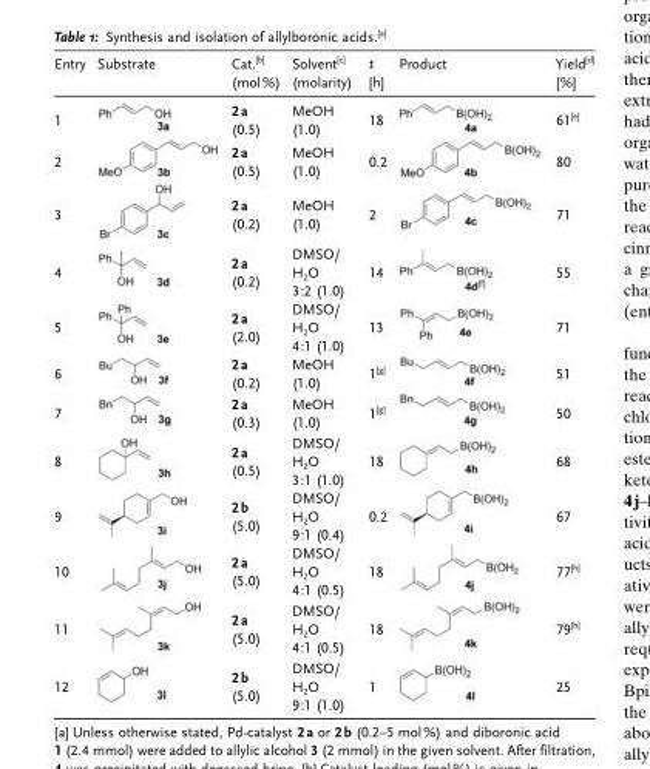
<table><thead><tr><td>Entry</td><td>Substrate</td><td>Cat.<sup>[b]</sup> (mol%)</td><td>Solvent<sup>[c]</sup> (molarity)</td><td>t [h]</td><td>Product</td><td>Yield<sup>[d]</sup> [%]</td></tr></thead><tbody><tr><td>1</td><td></td><td>2a (0.5)</td><td>MeOH (1.0)</td><td>18</td><td></td><td>61<sup>[e]</sup></td></tr><tr><td>2</td><td></td><td>2a (0.5)</td><td>MeOH (1.0)</td><td>0.2</td><td></td><td>80</td></tr><tr><td>3</td><td></td><td>2a (0.2)</td><td>MeOH (1.0)</td><td>2</td><td></td><td>71</td></tr><tr><td>4</td><td></td><td>2a (0.2)</td><td>DMSO/ H<sub>2</sub>O 3:2 (1.0)</td><td>14</td><td></td><td>55</td></tr><tr><td>5</td><td></td><td>2a (2.0)</td><td>DMSO/ H<sub>2</sub>O 4:1 (1.0)</td><td>13</td><td></td><td>71</td></tr><tr><td>6</td><td></td><td>2a (0.2)</td><td>MeOH (1.0)</td><td>1<sup>[g]</sup></td><td></td><td>51</td></tr><tr><td>7</td><td></td><td>2a (0.3)</td><td>MeOH (1.0)</td><td>1<sup>[g]</sup></td><td></td><td>50</td></tr><tr><td>8</td><td></td><td>2a (0.5)</td><td>DMSO/ H<sub>2</sub>O 3:1 (1.0)</td><td>18</td><td></td><td>68</td></tr><tr><td>9</td><td></td><td>2b (5.0)</td><td>DMSO/ H<sub>2</sub>O 9:1 (0.4)</td><td>0.2</td><td></td><td>67</td></tr><tr><td>10</td><td></td><td>2a (5.0)</td><td>DMSO/ H<sub>2</sub>O 4:1 (0.5)</td><td>18</td><td></td><td>77<sup>[h]</sup></td></tr><tr><td>11</td><td></td><td>2a (5.0)</td><td>DMSO/ H<sub>2</sub>O 4:1 (0.5)</td><td>18</td><td></td><td>79<sup>[h]</sup></td></tr><tr><td>12</td><td></td><td>2b (5.0)</td><td>DMSO/ H<sub>2</sub>O 9:1 (1.0)</td><td>1</td><td></td><td>25</td></tr></tbody></table>